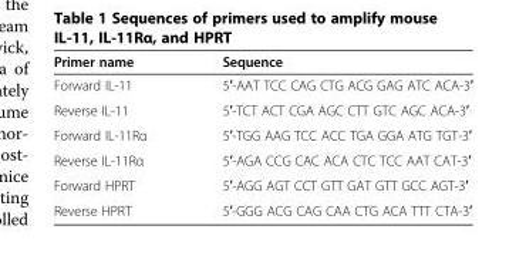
<table><thead><tr><td>Primer name</td><td>Sequence</td></tr></thead><tbody><tr><td>Forward IL-11</td><td>5′-AAT TCC CAG CTG ACG GAG ATC ACA-3′</td></tr><tr><td>Reverse IL-11</td><td>5′-TCT ACT CGA AGC CTT GTC AGC ACA-3′</td></tr><tr><td>Forward IL-11Rα</td><td>5′-TGG AAG TCC ACC TGA GGA ATG TGT-3′</td></tr><tr><td>Reverse IL-11Rα</td><td>5′-AGA CCG CAC ACA CTC TCC AAT CAT-3′</td></tr><tr><td>Forward HPRT</td><td>5′-AGG AGT CCT GTT GAT GTT GCC AGT-3′</td></tr><tr><td>Reverse HPRT</td><td>5′-GGG ACG CAG CAA CTG ACA TTT CTA-3′</td></tr></tbody></table>